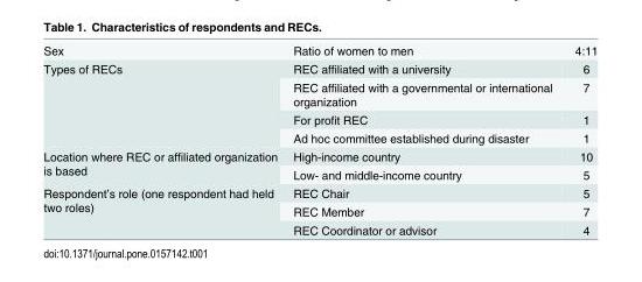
<table><tbody><tr><td>Sex</td><td>Ratio of women to men</td><td>4:11</td></tr><tr><td rowspan="4">Types of RECs</td><td>REC affiliated with a university</td><td>6</td></tr><tr><td>REC affiliated with a governmental or international organization</td><td>7</td></tr><tr><td>For profit REC</td><td>1</td></tr><tr><td>Ad hoc committee established during disaster</td><td>1</td></tr><tr><td rowspan="2">Location where REC or affiliated organization is based</td><td>High-income country</td><td>10</td></tr><tr><td>Low- and middle-income country</td><td>5</td></tr><tr><td rowspan="3">Respondent’s role (one respondent had held two roles)</td><td>REC Chair</td><td>5</td></tr><tr><td>REC Member</td><td>7</td></tr><tr><td>REC Coordinator or advisor</td><td>4</td></tr></tbody></table>